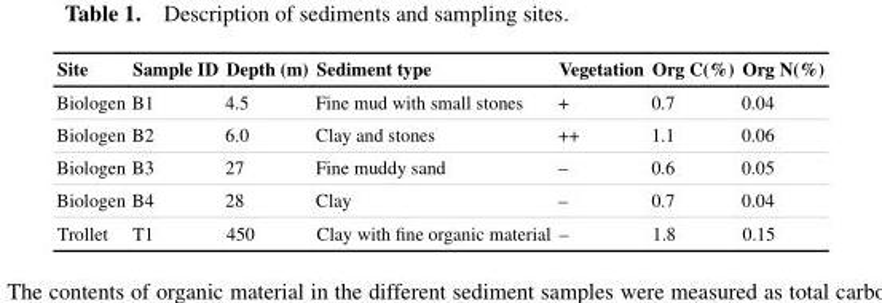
<table><thead><tr><td>Site</td><td>Sample ID</td><td>Depth (m)</td><td>Sediment type</td><td>Vegetation</td><td>Org C(%)</td><td>Org N(%)</td></tr></thead><tbody><tr><td>Biologen</td><td>B1</td><td>4.5</td><td>Fine mud with small stones</td><td>+</td><td>0.7</td><td>0.04</td></tr><tr><td>Biologen</td><td>B2</td><td>6.0</td><td>Clay and stones</td><td>++</td><td>1.1</td><td>0.06</td></tr><tr><td>Biologen</td><td>B3</td><td>27</td><td>Fine muddy sand</td><td>–</td><td>0.6</td><td>0.05</td></tr><tr><td>Biologen</td><td>B4</td><td>28</td><td>Clay</td><td>–</td><td>0.7</td><td>0.04</td></tr><tr><td>Trollet</td><td>T1</td><td>450</td><td>Clay with fine organic material</td><td>–</td><td>1.8</td><td>0.15</td></tr></tbody></table>